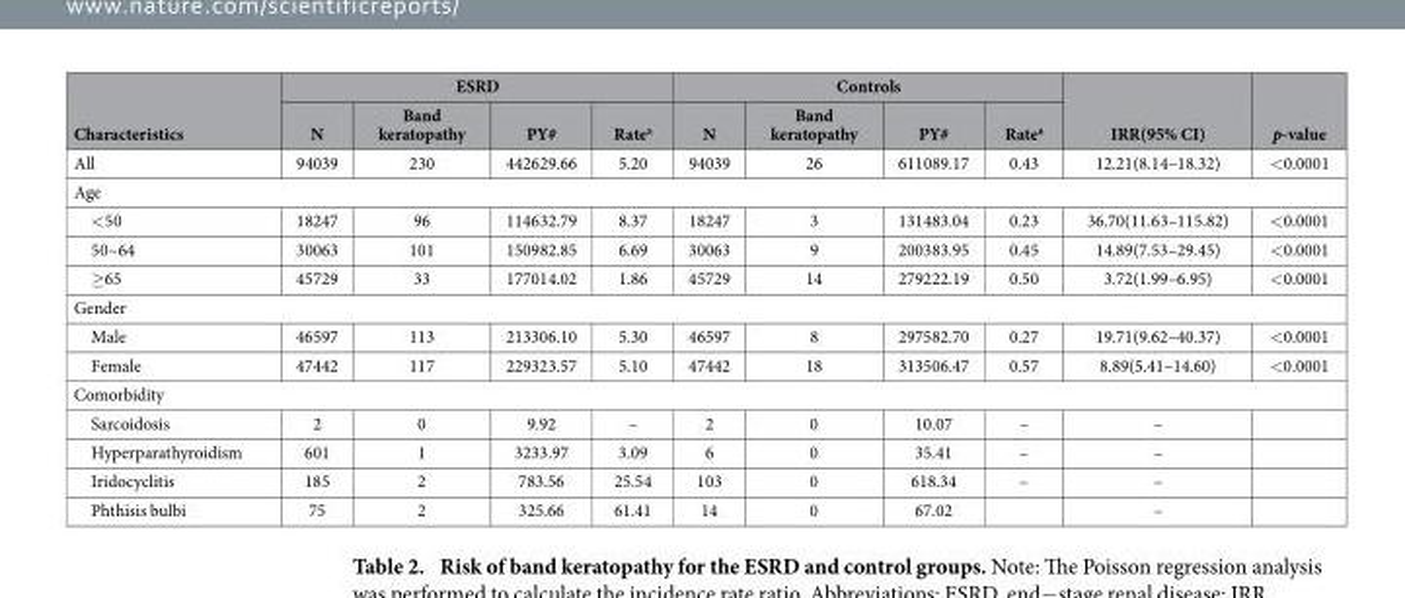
<table><thead><tr><td rowspan="2">Characteristics</td><td colspan="4">ESRD</td><td colspan="4">Controls</td><td rowspan="2">IRR(95% CI)</td><td rowspan="2">p-value</td></tr><tr><td>N</td><td>Band keratopathy</td><td>PY#</td><td>Rate<sup>a</sup></td><td>N</td><td>Band keratopathy</td><td>PY#</td><td>Rate<sup>a</sup></td></tr></thead><tbody><tr><td>All</td><td>94039</td><td>230</td><td>442629.66</td><td>5.20</td><td>94039</td><td>26</td><td>611089.17</td><td>0.43</td><td>12.21(8.14–18.32)</td><td>&lt; 0.0001</td></tr><tr><td colspan="11">Age</td></tr><tr><td>&lt; 50</td><td>18247</td><td>96</td><td>114632.79</td><td>8.37</td><td>18247</td><td>3</td><td>131483.04</td><td>0.23</td><td>36.70(11.63–115.82)</td><td>&lt; 0.0001</td></tr><tr><td>50~64</td><td>30063</td><td>101</td><td>150982.85</td><td>6.69</td><td>30063</td><td>9</td><td>200383.95</td><td>0.45</td><td>14.89(7.53–29.45)</td><td>&lt; 0.0001</td></tr><tr><td>≥ 65</td><td>45729</td><td>33</td><td>177014.02</td><td>1.86</td><td>45729</td><td>14</td><td>279222.19</td><td>0.50</td><td>3.72(1.99–6.95)</td><td>&lt; 0.0001</td></tr><tr><td colspan="11">Gender</td></tr><tr><td>Male</td><td>46597</td><td>113</td><td>213306.10</td><td>5.30</td><td>46597</td><td>8</td><td>297582.70</td><td>0.27</td><td>19.71(9.62–40.37)</td><td>&lt; 0.0001</td></tr><tr><td>Female</td><td>47442</td><td>117</td><td>229323.57</td><td>5.10</td><td>47442</td><td>18</td><td>313506.47</td><td>0.57</td><td>8.89(5.41–14.60)</td><td>&lt; 0.0001</td></tr><tr><td colspan="11">Comorbidity</td></tr><tr><td>Sarcoidosis</td><td>2</td><td>0</td><td>9.92</td><td>–</td><td>2</td><td>0</td><td>10.07</td><td>–</td><td>–</td><td></td></tr><tr><td>Hyperparathyroidism</td><td>601</td><td>1</td><td>3233.97</td><td>3.09</td><td>6</td><td>0</td><td>35.41</td><td>–</td><td>–</td><td></td></tr><tr><td>Iridocyclitis</td><td>185</td><td>2</td><td>783.56</td><td>25.54</td><td>103</td><td>0</td><td>618.34</td><td>–</td><td>–</td><td></td></tr><tr><td>Phthisis bulbi</td><td>75</td><td>2</td><td>325.66</td><td>61.41</td><td>14</td><td>0</td><td>67.02</td><td></td><td>–</td><td></td></tr></tbody></table>